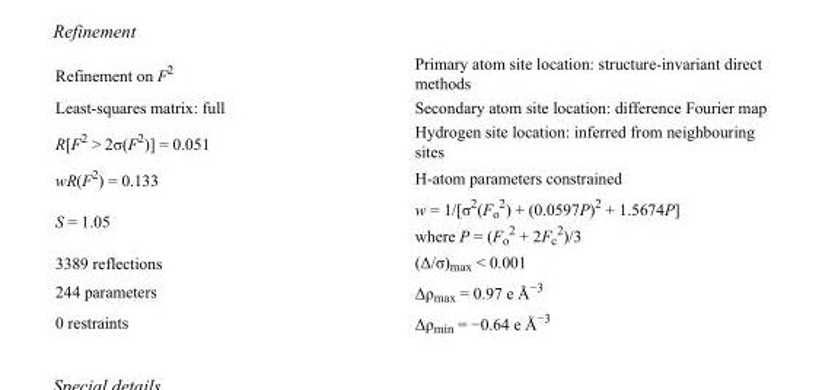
<table><tbody><tr><td>Refinement on F<sup>2</sup></td><td>Primary atom site location: structure-invariant direct methods</td></tr><tr><td>Least-squares matrix: full</td><td>Secondary atom site location: difference Fourier map</td></tr><tr><td>R[F<sup>2</sup> &gt; 2σ(F<sup>2</sup>)] = 0.051</td><td>Hydrogen site location: inferred from neighbouring sites</td></tr><tr><td>wR(F<sup>2</sup>) = 0.133</td><td>H-atom parameters constrained</td></tr><tr><td>S = 1.05</td><td>w = 1/[σ<sup>2</sup>(F<sub>o</sub> <sup>2</sup>) + (0.0597P)<sup>2</sup> + 1.5674P] where P = (F<sub>o</sub> <sup>2</sup> + 2F<sub>c</sub> <sup>2</sup>)/3</td></tr><tr><td>3389 reflections</td><td>(Δ/σ)<sub>max</sub> &lt; 0.001</td></tr><tr><td>244 parameters</td><td>Δρ<sub>max</sub> = 0.97 e Å<sup>−3</sup></td></tr><tr><td>0 restraints</td><td>Δρ<sub>min</sub> = −0.64 e Å<sup>−3</sup></td></tr></tbody></table>